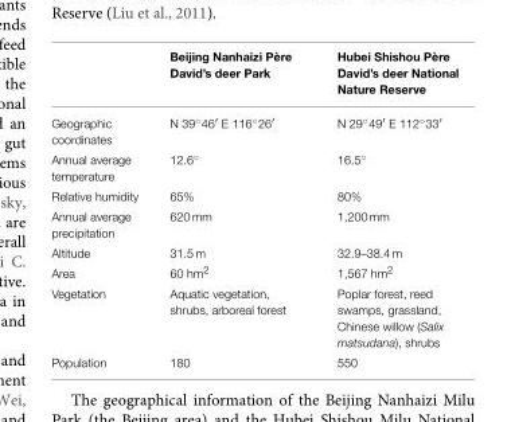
<table><thead><tr><td></td><td>Beijing Nanhaizi Père David’s deer Park</td><td>Hubei Shishou Père David’s deer National Nature Reserve</td></tr></thead><tbody><tr><td>Geographic coordinates</td><td>N 39◦46′ E 116◦26′</td><td>N 29◦49′ E 112◦33′</td></tr><tr><td>Annual average temperature</td><td>12.6◦</td><td>16.5◦</td></tr><tr><td>Relative humidity</td><td>65%</td><td>80%</td></tr><tr><td>Annual average precipitation</td><td>620 mm</td><td>1,200 mm</td></tr><tr><td>Altitude</td><td>31.5 m</td><td>32.9–38.4 m</td></tr><tr><td>Area</td><td>60 hm<sup>2</sup></td><td>1,567 hm<sup>2</sup></td></tr><tr><td>Vegetation</td><td>Aquatic vegetation, shrubs, arboreal forest</td><td>Poplar forest, reed swamps, grassland, Chinese willow (Salix matsudana), shrubs</td></tr><tr><td>Population</td><td>180</td><td>550</td></tr></tbody></table>